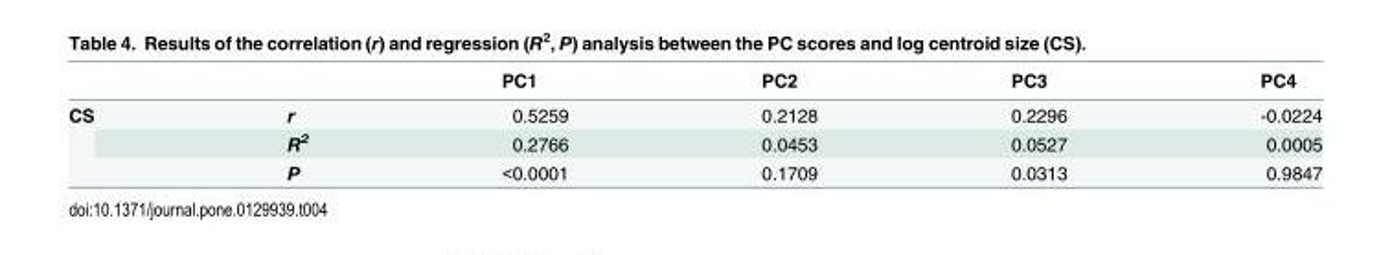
<table><thead><tr><td></td><td></td><td>PC1</td><td>PC2</td><td>PC3</td><td>PC4</td></tr></thead><tbody><tr><td rowspan="3">CS</td><td>r</td><td>0.5259</td><td>0.2128</td><td>0.2296</td><td>-0.0224</td></tr><tr><td>R<sup>2</sup></td><td>0.2766</td><td>0.0453</td><td>0.0527</td><td>0.0005</td></tr><tr><td>P</td><td>&lt;0.0001</td><td>0.1709</td><td>0.0313</td><td>0.9847</td></tr></tbody></table>